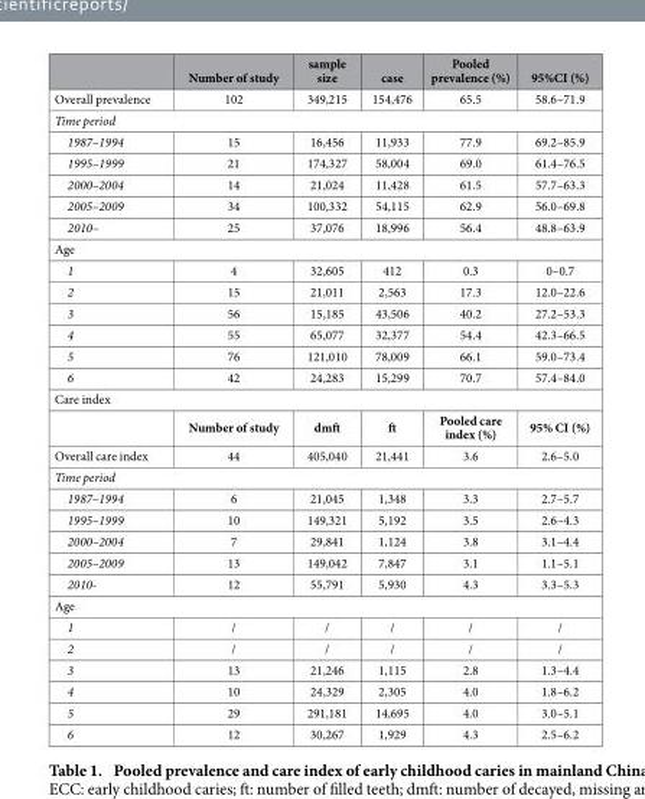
<table><thead><tr><td></td><td>Number of study</td><td>sample size</td><td>case</td><td>Pooled prevalence (%)</td><td>95%CI (%)</td></tr></thead><tbody><tr><td>Overall prevalence</td><td>102</td><td>349,215</td><td>154,476</td><td>65.5</td><td>58.6–71.9</td></tr><tr><td colspan="6">Time period</td></tr><tr><td>1987–1994</td><td>15</td><td>16,456</td><td>11,933</td><td>77.9</td><td>69.2–85.9</td></tr><tr><td>1995–1999</td><td>21</td><td>174,327</td><td>58,004</td><td>69.0</td><td>61.4–76.5</td></tr><tr><td>2000–2004</td><td>14</td><td>21,024</td><td>11,428</td><td>61.5</td><td>57.7–63.3</td></tr><tr><td>2005–2009</td><td>34</td><td>100,332</td><td>54,115</td><td>62.9</td><td>56.0–69.8</td></tr><tr><td>2010–</td><td>25</td><td>37,076</td><td>18,996</td><td>56.4</td><td>48.8–63.9</td></tr><tr><td colspan="6">Age</td></tr><tr><td>1</td><td>4</td><td>32,605</td><td>412</td><td>0.3</td><td>0–0.7</td></tr><tr><td>2</td><td>15</td><td>21,011</td><td>2,563</td><td>17.3</td><td>12.0–22.6</td></tr><tr><td>3</td><td>56</td><td>15,185</td><td>43,506</td><td>40.2</td><td>27.2–53.3</td></tr><tr><td>4</td><td>55</td><td>65,077</td><td>32,377</td><td>54.4</td><td>42.3–66.5</td></tr><tr><td>5</td><td>76</td><td>121,010</td><td>78,009</td><td>66.1</td><td>59.0–73.4</td></tr><tr><td rowspan="2">6 Care index</td><td>42</td><td>24,283</td><td>15,299</td><td>70.7</td><td>57.4–84.0</td></tr><tr><td>Number of study</td><td>dmft</td><td>ft</td><td>Pooled care index (%)</td><td>95% CI (%)</td></tr><tr><td>Overall care index</td><td>44</td><td>405,040</td><td>21,441</td><td>3.6</td><td>2.6–5.0</td></tr><tr><td colspan="6">Time period</td></tr><tr><td>1987–1994</td><td>6</td><td>21,045</td><td>1,348</td><td>3.3</td><td>2.7–5.7</td></tr><tr><td>1995–1999</td><td>10</td><td>149,321</td><td>5,192</td><td>3.5</td><td>2.6–4.3</td></tr><tr><td>2000–2004</td><td>7</td><td>29,841</td><td>1,124</td><td>3.8</td><td>3.1–4.4</td></tr><tr><td>2005–2009</td><td>13</td><td>149,042</td><td>7,847</td><td>3.1</td><td>1.1–5.1</td></tr><tr><td>2010-</td><td>12</td><td>55,791</td><td>5,930</td><td>4.3</td><td>3.3–5.3</td></tr><tr><td colspan="6">Age</td></tr><tr><td>1</td><td>/</td><td>/</td><td>/</td><td>/</td><td>/</td></tr><tr><td>2</td><td>/</td><td>/</td><td>/</td><td>/</td><td>/</td></tr><tr><td>3</td><td>13</td><td>21,246</td><td>1,115</td><td>2.8</td><td>1.3–4.4</td></tr><tr><td>4</td><td>10</td><td>24,329</td><td>2,305</td><td>4.0</td><td>1.8–6.2</td></tr><tr><td>5</td><td>29</td><td>291,181</td><td>14,695</td><td>4.0</td><td>3.0–5.1</td></tr><tr><td>6</td><td>12</td><td>30,267</td><td>1,929</td><td>4.3</td><td>2.5–6.2</td></tr></tbody></table>